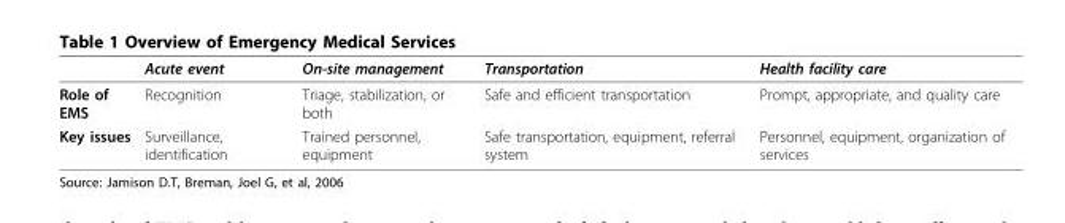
<table><thead><tr><td></td><td>Acute event</td><td>On-site management</td><td>Transportation</td><td>Health facility care</td></tr></thead><tbody><tr><td>Role of EMS</td><td>Recognition</td><td>Triage, stabilization, or both</td><td>Safe and efficient transportation</td><td>Prompt, appropriate, and quality care</td></tr><tr><td>Key issues</td><td>Surveillance, identification</td><td>Trained personnel, equipment</td><td>Safe transportation, equipment, referral system</td><td>Personnel, equipment, organization of services</td></tr></tbody></table>